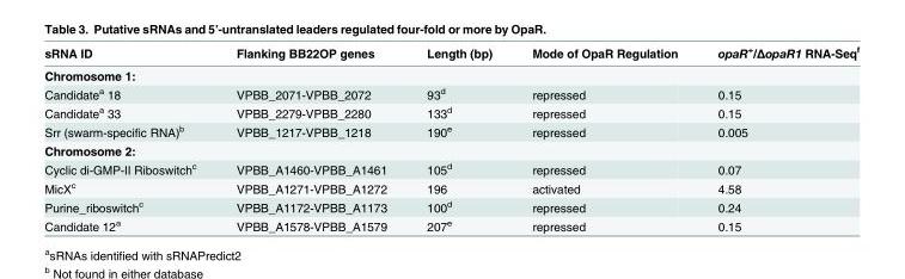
<table><thead><tr><td>sRNA ID</td><td>Flanking BB22OP genes</td><td>Length (bp)</td><td>Mode of OpaR Regulation</td><td>opaR<sup>+</sup>/ΔopaR1 RNA-Seq<sup>f</sup></td></tr></thead><tbody><tr><td colspan="5">Chromosome 1:</td></tr><tr><td>Candidate<sup>a</sup> 18</td><td>VPBB_2071-VPBB_2072</td><td>93<sup>d</sup></td><td>repressed</td><td>0.15</td></tr><tr><td>Candidate<sup>a</sup> 33</td><td>VPBB_2279-VPBB_2280</td><td>133<sup>d</sup></td><td>repressed</td><td>0.15</td></tr><tr><td>Srr (swarm-specific RNA)<sup>b</sup></td><td>VPBB_1217-VPBB_1218</td><td>190<sup>e</sup></td><td>repressed</td><td>0.005</td></tr><tr><td colspan="5">Chromosome 2:</td></tr><tr><td>Cyclic di-GMP-II Riboswitch<sup>c</sup></td><td>VPBB_A1460-VPBB_A1461</td><td>105<sup>d</sup></td><td>repressed</td><td>0.07</td></tr><tr><td>MicX<sup>c</sup></td><td>VPBB_A1271-VPBB_A1272</td><td>196</td><td>activated</td><td>4.58</td></tr><tr><td>Purine_riboswitch<sup>c</sup></td><td>VPBB_A1172-VPBB_A1173</td><td>100<sup>d</sup></td><td>repressed</td><td>0.24</td></tr><tr><td>Candidate 12<sup>a</sup></td><td>VPBB_A1578-VPBB_A1579</td><td>207<sup>e</sup></td><td>repressed</td><td>0.15</td></tr></tbody></table>